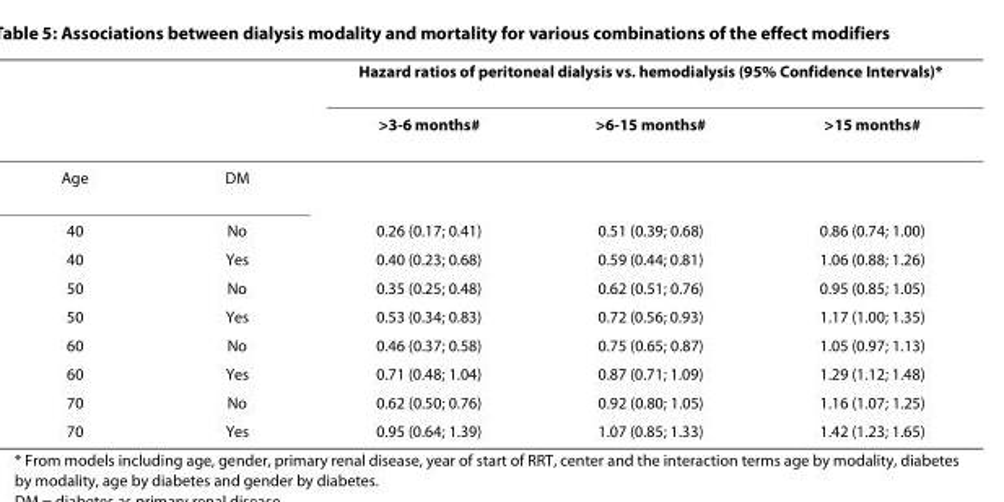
<table><thead><tr><td rowspan="2"></td><td rowspan="2"></td><td colspan="3">Hazard ratios of peritoneal dialysis vs. hemodialysis (95% Confidence Intervals)*</td></tr><tr><td>&gt;3-6 months<sup>#</sup></td><td>&gt;6-15 months<sup>#</sup></td><td>&gt;15 months<sup>#</sup></td></tr></thead><tbody><tr><td>Age</td><td>DM</td><td></td><td></td><td></td></tr><tr><td>40</td><td>No</td><td>0.26 (0.17; 0.41)</td><td>0.51 (0.39; 0.68)</td><td>0.86 (0.74; 1.00)</td></tr><tr><td>40</td><td>Yes</td><td>0.40 (0.23; 0.68)</td><td>0.59 (0.44; 0.81)</td><td>1.06 (0.88; 1.26)</td></tr><tr><td>50</td><td>No</td><td>0.35 (0.25; 0.48)</td><td>0.62 (0.51; 0.76)</td><td>0.95 (0.85; 1.05)</td></tr><tr><td>50</td><td>Yes</td><td>0.53 (0.34; 0.83)</td><td>0.72 (0.56; 0.93)</td><td>1.17 (1.00; 1.35)</td></tr><tr><td>60</td><td>No</td><td>0.46 (0.37; 0.58)</td><td>0.75 (0.65; 0.87)</td><td>1.05 (0.97; 1.13)</td></tr><tr><td>60</td><td>Yes</td><td>0.71 (0.48; 1.04)</td><td>0.87 (0.71; 1.09)</td><td>1.29 (1.12; 1.48)</td></tr><tr><td>70</td><td>No</td><td>0.62 (0.50; 0.76)</td><td>0.92 (0.80; 1.05)</td><td>1.16 (1.07; 1.25)</td></tr><tr><td>70</td><td>Yes</td><td>0.95 (0.64; 1.39)</td><td>1.07 (0.85; 1.33)</td><td>1.42 (1.23; 1.65)</td></tr></tbody></table>